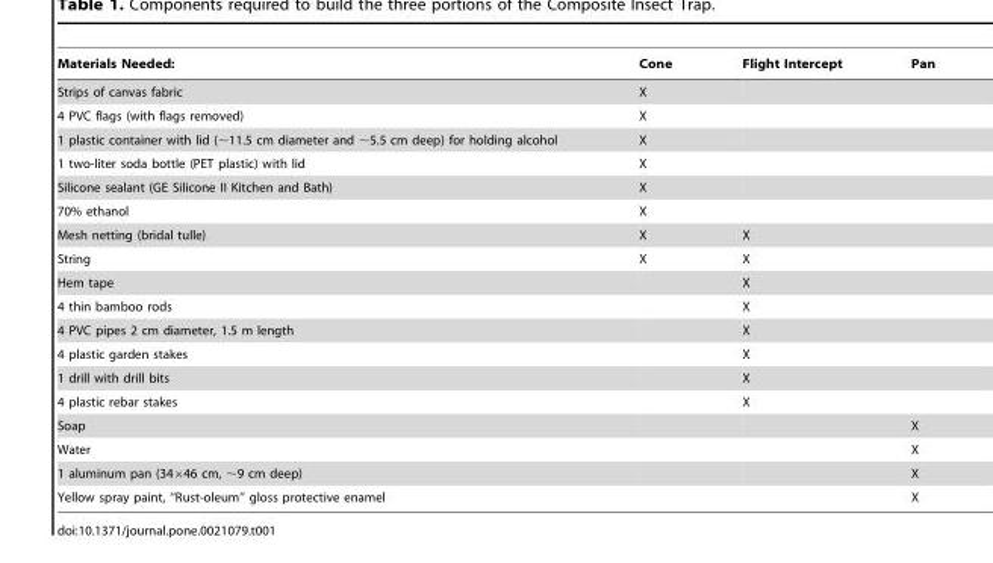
<table><thead><tr><td>Materials Needed:</td><td>Cone</td><td>Flight Intercept</td><td>Pan</td></tr></thead><tbody><tr><td>Strips of canvas fabric</td><td>X</td><td></td><td></td></tr><tr><td>4 PVC flags (with flags removed)</td><td>X</td><td></td><td></td></tr><tr><td>1 plastic container with lid (∼11.5 cm diameter and ∼5.5 cm deep) for holding alcohol</td><td>X</td><td></td><td></td></tr><tr><td>1 two-liter soda bottle (PET plastic) with lid</td><td>X</td><td></td><td></td></tr><tr><td>Silicone sealant (GE Silicone II Kitchen and Bath)</td><td>X</td><td></td><td></td></tr><tr><td>70% ethanol</td><td>X</td><td></td><td></td></tr><tr><td>Mesh netting (bridal tulle)</td><td>X</td><td>X</td><td></td></tr><tr><td>String</td><td>X</td><td>X</td><td></td></tr><tr><td>Hem tape</td><td></td><td>X</td><td></td></tr><tr><td>4 thin bamboo rods</td><td></td><td>X</td><td></td></tr><tr><td>4 PVC pipes 2 cm diameter, 1.5 m length</td><td></td><td>X</td><td></td></tr><tr><td>4 plastic garden stakes</td><td></td><td>X</td><td></td></tr><tr><td>1 drill with drill bits</td><td></td><td>X</td><td></td></tr><tr><td>4 plastic rebar stakes</td><td></td><td>X</td><td></td></tr><tr><td>Soap</td><td></td><td></td><td>X</td></tr><tr><td>Water</td><td></td><td></td><td>X</td></tr><tr><td>1 aluminum pan (34×46 cm, ∼9 cm deep)</td><td></td><td></td><td>X</td></tr><tr><td>Yellow spray paint, ‘‘Rust-oleum’’ gloss protective enamel</td><td></td><td></td><td>X</td></tr></tbody></table>